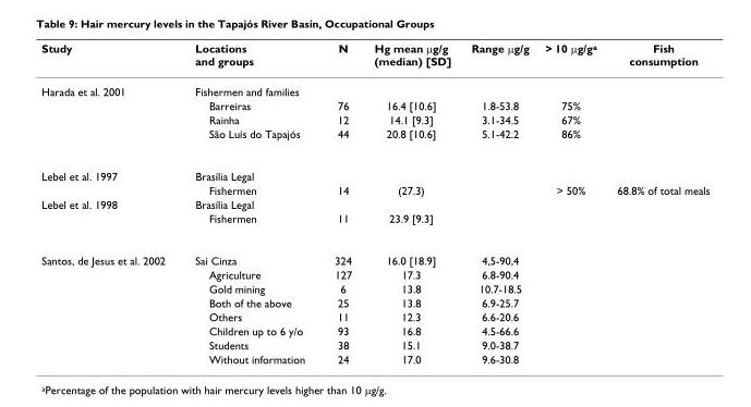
<table><thead><tr><td>Study</td><td>Locations and groups</td><td>N</td><td>Hg mean μg/g (median) [SD]</td><td>Range μg/g</td><td>&gt; 10 μg/g<sup>a</sup></td><td>Fish consumption</td></tr></thead><tbody><tr><td rowspan="4">Harada et al. 2001</td><td>Fishermen and families</td><td></td><td></td><td></td><td></td><td></td></tr><tr><td>Barreiras</td><td>76</td><td>16.4 [10.6]</td><td>1.8-53.8</td><td>75%</td><td></td></tr><tr><td>Rainha</td><td>12</td><td>14.1 [9.3]</td><td>3.1-34.5</td><td>67%</td><td></td></tr><tr><td>São Luís do Tapajós</td><td>44</td><td>20.8 [10.6]</td><td>5.1-42.2</td><td>86%</td><td></td></tr><tr><td rowspan="2">Lebel et al. 1997</td><td>Brasília Legal</td><td></td><td></td><td></td><td></td><td></td></tr><tr><td>Fishermen</td><td>14</td><td>(27.3)</td><td></td><td>&gt; 50%</td><td>68.8% of total meals</td></tr><tr><td rowspan="2">Lebel et al. 1998</td><td>Brasília Legal</td><td></td><td></td><td></td><td></td><td></td></tr><tr><td>Fishermen</td><td>11</td><td>23.9 [9.3]</td><td></td><td></td><td></td></tr><tr><td rowspan="8">Santos, de Jesus et al. 2002</td><td>Sai Cinza</td><td>324</td><td>16.0 [18.9]</td><td>4,5-90,4</td><td></td><td></td></tr><tr><td>Agriculture</td><td>127</td><td>17.3</td><td>6.8-90.4</td><td></td><td></td></tr><tr><td>Gold mining</td><td>6</td><td>13.8</td><td>10.7-18.5</td><td></td><td></td></tr><tr><td>Both of the above</td><td>25</td><td>13.8</td><td>6.9-25.7</td><td></td><td></td></tr><tr><td>Others</td><td>11</td><td>12.3</td><td>6.6-20.6</td><td></td><td></td></tr><tr><td>Children up to 6 y/o</td><td>93</td><td>16.8</td><td>4.5-66.6</td><td></td><td></td></tr><tr><td>Students</td><td>38</td><td>15.1</td><td>9.0-38.7</td><td></td><td></td></tr><tr><td>Without information</td><td>24</td><td>17.0</td><td>9.6-30.8</td><td></td><td></td></tr></tbody></table>